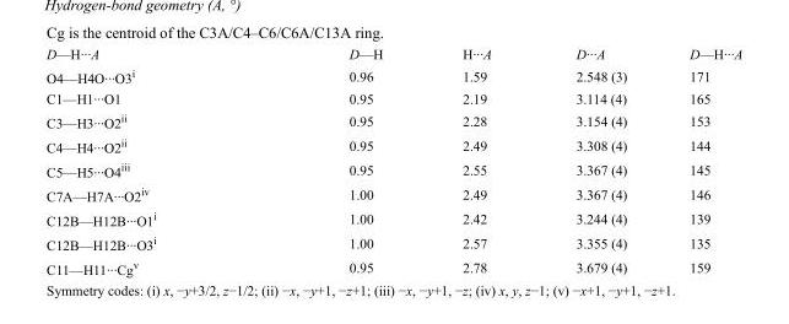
<table><tbody><tr><td>D—H···A</td><td>D—H</td><td>H···A</td><td>D···A</td><td>D—H···A</td></tr><tr><td>O4—H4O···O3<sup>i</sup></td><td>0.96</td><td>1.59</td><td>2.548 (3)</td><td>171</td></tr><tr><td>C1—H1···O1</td><td>0.95</td><td>2.19</td><td>3.114 (4)</td><td>165</td></tr><tr><td>C3—H3···O2<sup>ii</sup></td><td>0.95</td><td>2.28</td><td>3.154 (4)</td><td>153</td></tr><tr><td>C4—H4···O2<sup>ii</sup></td><td>0.95</td><td>2.49</td><td>3.308 (4)</td><td>144</td></tr><tr><td>C5—H5···O4<sup>iii</sup></td><td>0.95</td><td>2.55</td><td>3.367 (4)</td><td>145</td></tr><tr><td>C7A—H7A···O2<sup>iv</sup></td><td>1.00</td><td>2.49</td><td>3.367 (4)</td><td>146</td></tr><tr><td>C12B—H12B···O1<sup>i</sup></td><td>1.00</td><td>2.42</td><td>3.244 (4)</td><td>139</td></tr><tr><td>C12B—H12B···O3<sup>i</sup></td><td>1.00</td><td>2.57</td><td>3.355 (4)</td><td>135</td></tr><tr><td>C11—H11···Cg<sup>v</sup></td><td>0.95</td><td>2.78</td><td>3.679 (4)</td><td>159</td></tr></tbody></table>